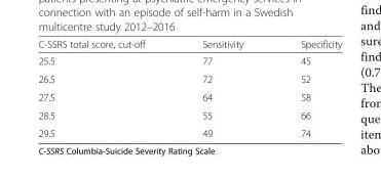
<table><thead><tr><td>C-SSRS total score, cut-off</td><td>Sensitivity</td><td>Specificity</td></tr></thead><tbody><tr><td>25.5</td><td>77</td><td>45</td></tr><tr><td>26.5</td><td>72</td><td>52</td></tr><tr><td>27.5</td><td>64</td><td>58</td></tr><tr><td>28.5</td><td>55</td><td>66</td></tr><tr><td>29.5</td><td>49</td><td>74</td></tr></tbody></table>